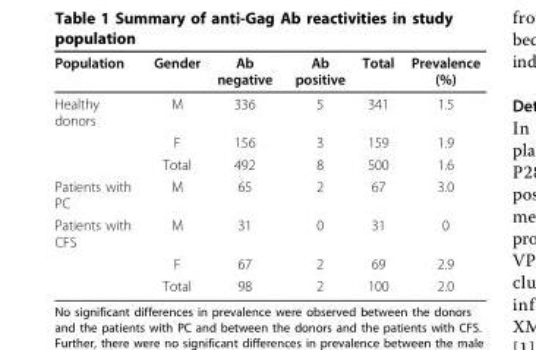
<table><thead><tr><td>Population</td><td>Gender</td><td>Ab negative</td><td>Ab positive</td><td>Total</td><td>Prevalence (%)</td></tr></thead><tbody><tr><td rowspan="3">Healthy donors</td><td>M</td><td>336</td><td>5</td><td>341</td><td>1.5</td></tr><tr><td>F</td><td>156</td><td>3</td><td>159</td><td>1.9</td></tr><tr><td>Total</td><td>492</td><td>8</td><td>500</td><td>1.6</td></tr><tr><td>Patients with PC</td><td>M</td><td>65</td><td>2</td><td>67</td><td>3.0</td></tr><tr><td rowspan="3">Patients with CFS</td><td>M</td><td>31</td><td>0</td><td>31</td><td>0</td></tr><tr><td>F</td><td>67</td><td>2</td><td>69</td><td>2.9</td></tr><tr><td>Total</td><td>98</td><td>2</td><td>100</td><td>2.0</td></tr></tbody></table>